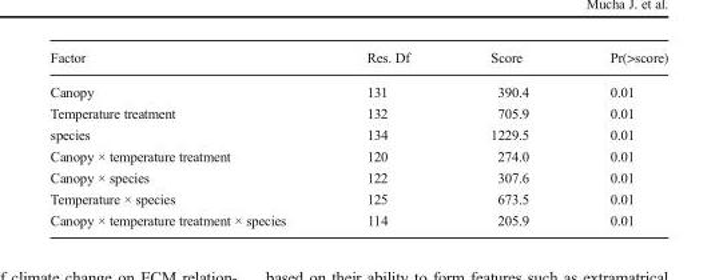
<table><thead><tr><td>Factor</td><td>Res. Df</td><td>Score</td><td>Pr(&gt;score)</td></tr></thead><tbody><tr><td>Canopy</td><td>131</td><td>390.4</td><td>0.01</td></tr><tr><td>Temperature treatment</td><td>132</td><td>705.9</td><td>0.01</td></tr><tr><td>species</td><td>134</td><td>1229.5</td><td>0.01</td></tr><tr><td>Canopy × temperature treatment</td><td>120</td><td>274.0</td><td>0.01</td></tr><tr><td>Canopy × species</td><td>122</td><td>307.6</td><td>0.01</td></tr><tr><td>Temperature × species</td><td>125</td><td>673.5</td><td>0.01</td></tr><tr><td>Canopy × temperature treatment × species</td><td>114</td><td>205.9</td><td>0.01</td></tr></tbody></table>